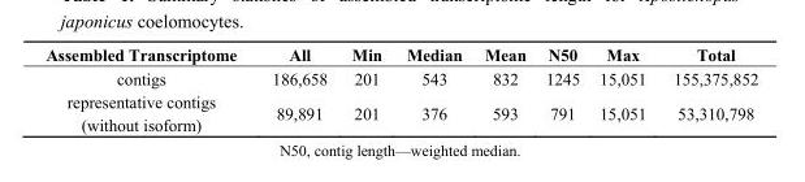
<table><thead><tr><td>Assembled Transcriptome</td><td>All</td><td>Min</td><td>Median</td><td>Mean</td><td>N50</td><td>Max</td><td>Total</td></tr></thead><tbody><tr><td>contigs</td><td>186,658</td><td>201</td><td>543</td><td>832</td><td>1245</td><td>15,051</td><td>155,375,852</td></tr><tr><td>representative contigs (without isoform)</td><td>89,891</td><td>201</td><td>376</td><td>593</td><td>791</td><td>15,051</td><td>53,310,798</td></tr></tbody></table>